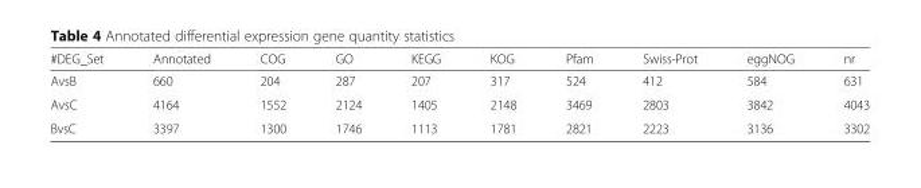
<table><thead><tr><td>#DEG_Set</td><td>Annotated</td><td>COG</td><td>GO</td><td>KEGG</td><td>KOG</td><td>Pfam</td><td>Swiss-Prot</td><td>eggNOG</td><td>nr</td></tr></thead><tbody><tr><td>AvsB</td><td>660</td><td>204</td><td>287</td><td>207</td><td>317</td><td>524</td><td>412</td><td>584</td><td>631</td></tr><tr><td>AvsC</td><td>4164</td><td>1552</td><td>2124</td><td>1405</td><td>2148</td><td>3469</td><td>2803</td><td>3842</td><td>4043</td></tr><tr><td>BvsC</td><td>3397</td><td>1300</td><td>1746</td><td>1113</td><td>1781</td><td>2821</td><td>2223</td><td>3136</td><td>3302</td></tr></tbody></table>